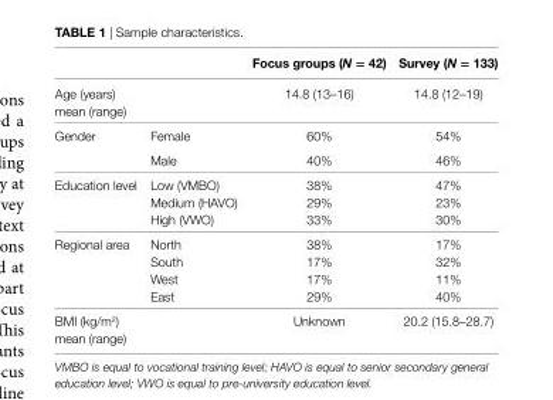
<table><thead><tr><td></td><td></td><td>Focus groups (N = 42)</td><td>survey (N = 133)</td></tr></thead><tbody><tr><td>Age (years) mean (range)</td><td></td><td>14.8 (13–16)</td><td>14.8 (12–19)</td></tr><tr><td rowspan="2">Gender</td><td>Female</td><td>60%</td><td>54%</td></tr><tr><td>Male</td><td>40%</td><td>46%</td></tr><tr><td rowspan="3">Education level</td><td>Low (VMBO)</td><td>38%</td><td>47%</td></tr><tr><td>Medium (HAVO)</td><td>29%</td><td>23%</td></tr><tr><td>High (VWO)</td><td>33%</td><td>30%</td></tr><tr><td rowspan="4">Regional area</td><td>North</td><td>38%</td><td>17%</td></tr><tr><td>South</td><td>17%</td><td>32%</td></tr><tr><td>West</td><td>17%</td><td>11%</td></tr><tr><td>East</td><td>29%</td><td>40%</td></tr><tr><td>BMI (kg/m<sup>2</sup>) mean (range)</td><td></td><td>Unknown</td><td>20.2 (15.8–28.7)</td></tr></tbody></table>